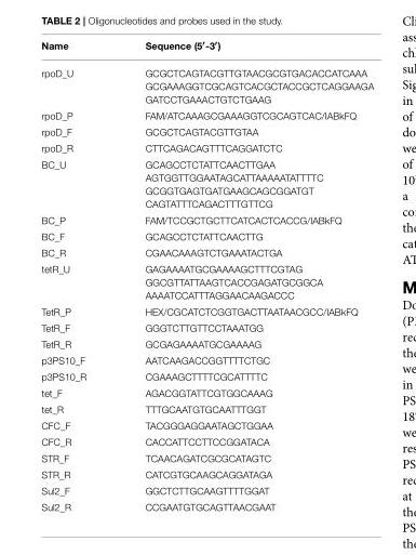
<table><thead><tr><td>Name</td><td>Sequence (5′-3′)</td></tr></thead><tbody><tr><td>rpoD_U</td><td>GCGCTCAGTACGTTGTAACGCGTGACACCATCAAA GCGAAAGGTCGCAGTCACGCTACCGCTCAGGAAGA GATCCTGAAACTGTCTGAAG</td></tr><tr><td>rpoD_P</td><td>FAM/ATCAAAGCGAAAGGTCGCAGTCAC/IABkFQ</td></tr><tr><td>rpoD_F</td><td>GCGCTCAGTACGTTGTAA</td></tr><tr><td>rpoD_R</td><td>CTTCAGACAGTTTCAGGATCTC</td></tr><tr><td>BC_U</td><td>GCAGCCTCTATTCAACTTGAA AGTGGTTGGAATAGCATTAAAAATATTTTC GCGGTGAGTGATGAAGCAGCGGATGT CAGTATTTCAGACTTTGTTCG</td></tr><tr><td>BC_P</td><td>FAM/TCCGCTGCTTCATCACTCACCG/IABkFQ</td></tr><tr><td>BC_F</td><td>GCAGCCTCTATTCAACTTG</td></tr><tr><td>BC_R</td><td>CGAACAAAGTCTGAAATACTGA</td></tr><tr><td>tetR_U</td><td>GAGAAAATGCGAAAAGCTTTCGTAG GGCGTTATTAAGTCACCGAGATGCGGCA AAAATCCATTTAGGAACAAGACCC</td></tr><tr><td>TetR_P</td><td>HEX/CGCATCTCGGTGACTTAATAACGCC/IABkFQ</td></tr><tr><td>TetR_F</td><td>GGGTCTTGTTCCTAAATGG</td></tr><tr><td>TetR_R</td><td>GCGAGAAAATGCGAAAAG</td></tr><tr><td>p3PS10_F</td><td>AATCAAGACCGGTTTTCTGC</td></tr><tr><td>p3PS10_R</td><td>CGAAAGCTTTTCGCATTTTC</td></tr><tr><td>tet_F</td><td>AGACGGTATTCGTGGCAAAG</td></tr><tr><td>tet_R</td><td>TTTGCAATGTGCAATTTGGT</td></tr><tr><td>CFC_F</td><td>TACGGGAGGAATAGCTGGAA</td></tr><tr><td>CFC_R</td><td>CACCATTCCTTCCGGATACA</td></tr><tr><td>STR_F</td><td>TCAACAGATCGCGCATAGTC</td></tr><tr><td>STR_R</td><td>CATCGTGCAAGCAGGATAGA</td></tr><tr><td>Sul2_F</td><td>GGCTCTTGCAAGTTTTGGAT</td></tr><tr><td>Sul2_R</td><td>CCGAATGTGCAGTTAACGAAT</td></tr></tbody></table>